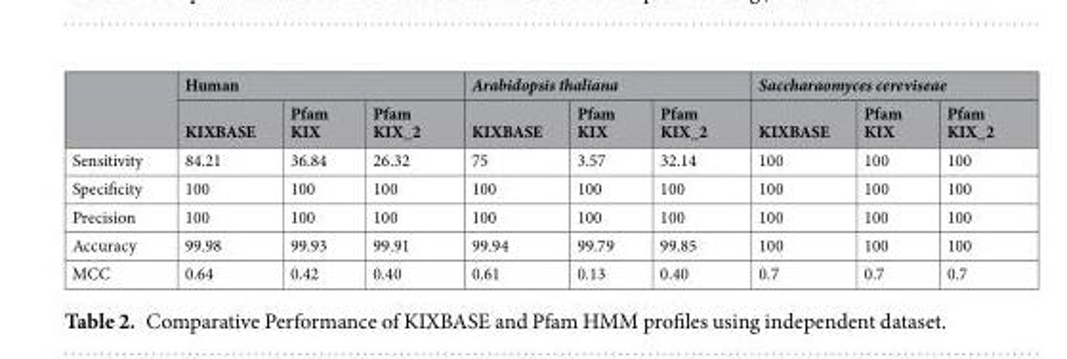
<table><thead><tr><td rowspan="2"></td><td colspan="3">Human</td><td colspan="3">Arabidopsis thaliana</td><td colspan="3">Saccharaomyces cereviseae</td></tr><tr><td>KIXBASE</td><td>Pfam KIX</td><td>Pfam KIX_2</td><td>KIXBASE</td><td>Pfam KIX</td><td>Pfam KIX_2</td><td>KIXBASE</td><td>Pfam KIX</td><td>Pfam KIX_2</td></tr></thead><tbody><tr><td>Sensitivity</td><td>84.21</td><td>36.84</td><td>26.32</td><td>75</td><td>3.57</td><td>32.14</td><td>100</td><td>100</td><td>100</td></tr><tr><td>Specificity</td><td>100</td><td>100</td><td>100</td><td>100</td><td>100</td><td>100</td><td>100</td><td>100</td><td>100</td></tr><tr><td>Precision</td><td>100</td><td>100</td><td>100</td><td>100</td><td>100</td><td>100</td><td>100</td><td>100</td><td>100</td></tr><tr><td>Accuracy</td><td>99.98</td><td>99.93</td><td>99.91</td><td>99.94</td><td>99.79</td><td>99.85</td><td>100</td><td>100</td><td>100</td></tr><tr><td>MCC</td><td>0.64</td><td>0.42</td><td>0.40</td><td>0.61</td><td>0.13</td><td>0.40</td><td>0.7</td><td>0.7</td><td>0.7</td></tr></tbody></table>